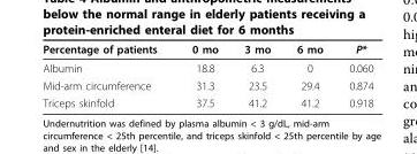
<table><thead><tr><td>Percentage of patients</td><td>0 mo</td><td>3 mo</td><td>6 mo</td><td>P*</td></tr></thead><tbody><tr><td>Albumin</td><td>18.8</td><td>6.3</td><td>0</td><td>0.060</td></tr><tr><td>Mid-arm circumference</td><td>31.3</td><td>23.5</td><td>29.4</td><td>0.874</td></tr><tr><td>Triceps skinfold</td><td>37.5</td><td>41.2</td><td>41.2</td><td>0.918</td></tr></tbody></table>